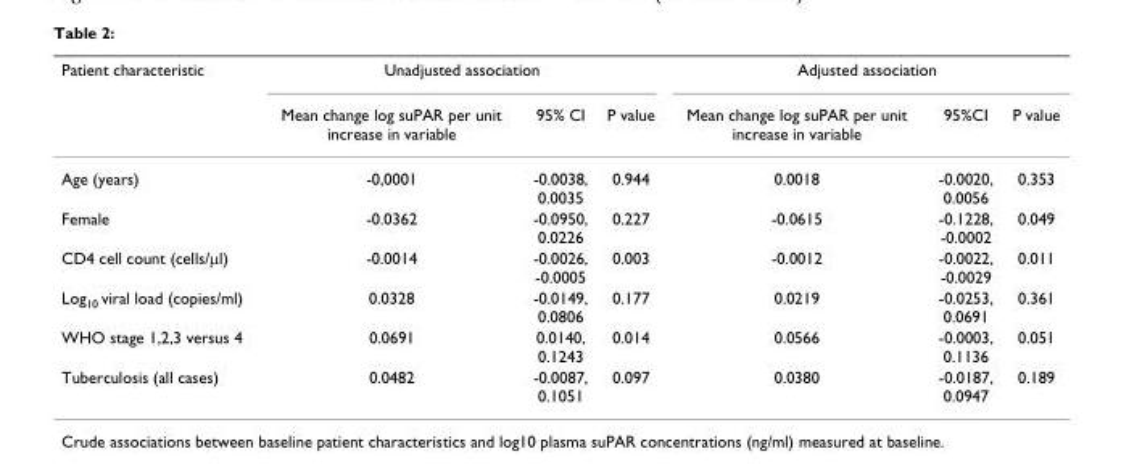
<table><thead><tr><td rowspan="2">Patient characteristic</td><td colspan="3">Unadjusted association</td><td colspan="3">Adjusted association</td></tr><tr><td>Mean change log suPAR per unit increase in variable</td><td>95% CI</td><td>P value</td><td>Mean change log suPAR per unit increase in variable</td><td>95%CI</td><td>P value</td></tr></thead><tbody><tr><td>Age (years)</td><td>-0,0001</td><td>-0.0038, 0.0035</td><td>0.944</td><td>0.0018</td><td>-0.0020, 0.0056</td><td>0.353</td></tr><tr><td>Female</td><td>-0.0362</td><td>-0.0950, 0.0226</td><td>0.227</td><td>-0.0615</td><td>-0.1228, -0.0002</td><td>0.049</td></tr><tr><td>CD4 cell count (cells/µl)</td><td>-0.0014</td><td>-0.0026, -0.0005</td><td>0.003</td><td>-0.0012</td><td>-0.0022, -0.0029</td><td>0.011</td></tr><tr><td>Log<sub>10</sub> viral load (copies/ml)</td><td>0.0328</td><td>-0.0149, 0.0806</td><td>0.177</td><td>0.0219</td><td>-0.0253, 0.0691</td><td>0.361</td></tr><tr><td>WHO stage 1,2,3 versus 4</td><td>0.0691</td><td>0.0140, 0.1243</td><td>0.014</td><td>0.0566</td><td>-0.0003, 0.1136</td><td>0.051</td></tr><tr><td>Tuberculosis (all cases)</td><td>0.0482</td><td>-0.0087, 0.1051</td><td>0.097</td><td>0.0380</td><td>-0.0187, 0.0947</td><td>0.189</td></tr></tbody></table>